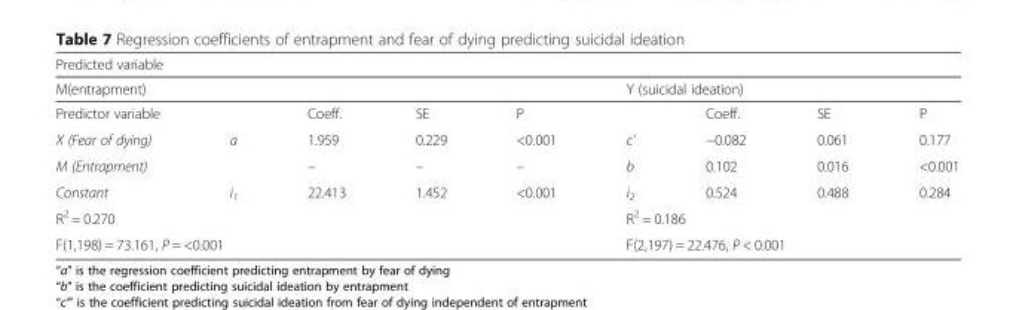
<table><thead><tr><td colspan="9">Predicted variable</td></tr><tr><td colspan="5">M(entrapment)</td><td colspan="4">Y (suicidal ideation)</td></tr><tr><td>Predictor variable</td><td></td><td>Coeff.</td><td>SE</td><td>P</td><td></td><td>Coeff.</td><td>SE</td><td>P</td></tr></thead><tbody><tr><td>X (Fear of dying)</td><td>a</td><td>1.959</td><td>0.229</td><td>&lt;0.001</td><td>c’</td><td>−0.082</td><td>0.061</td><td>0.177</td></tr><tr><td>M (Entrapment)</td><td></td><td>–</td><td>–</td><td>–</td><td>b</td><td>0.102</td><td>0.016</td><td>&lt;0.001</td></tr><tr><td>Constant</td><td>i<sub>1</sub></td><td>22.413</td><td>1.452</td><td>&lt;0.001</td><td>i<sub>2</sub></td><td>0.524</td><td>0.488</td><td>0.284</td></tr><tr><td colspan="5">R<sup>2</sup> = 0.270</td><td colspan="4">R<sup>2</sup> = 0.186</td></tr><tr><td colspan="5">F(1,198) = 73.161, P = &lt;0.001</td><td colspan="4">F(2,197) = 22.476, P &lt; 0.001</td></tr></tbody></table>